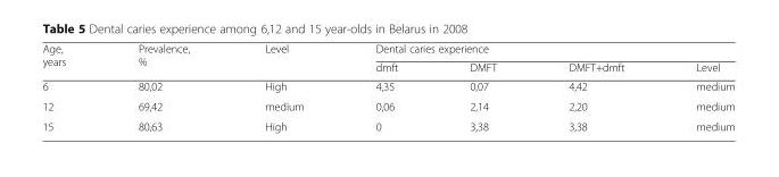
<table><thead><tr><td rowspan="2">Age, years</td><td rowspan="2">Prevalence, %</td><td rowspan="2">Level</td><td colspan="4">Dental caries experience</td></tr><tr><td>dmft</td><td>DMFT</td><td>DMFT+dmft</td><td>Level</td></tr></thead><tbody><tr><td>6</td><td>80,02</td><td>High</td><td>4,35</td><td>0,07</td><td>4,42</td><td>medium</td></tr><tr><td>12</td><td>69,42</td><td>medium</td><td>0,06</td><td>2,14</td><td>2,20</td><td>medium</td></tr><tr><td>15</td><td>80,63</td><td>High</td><td>0</td><td>3,38</td><td>3,38</td><td>medium</td></tr></tbody></table>